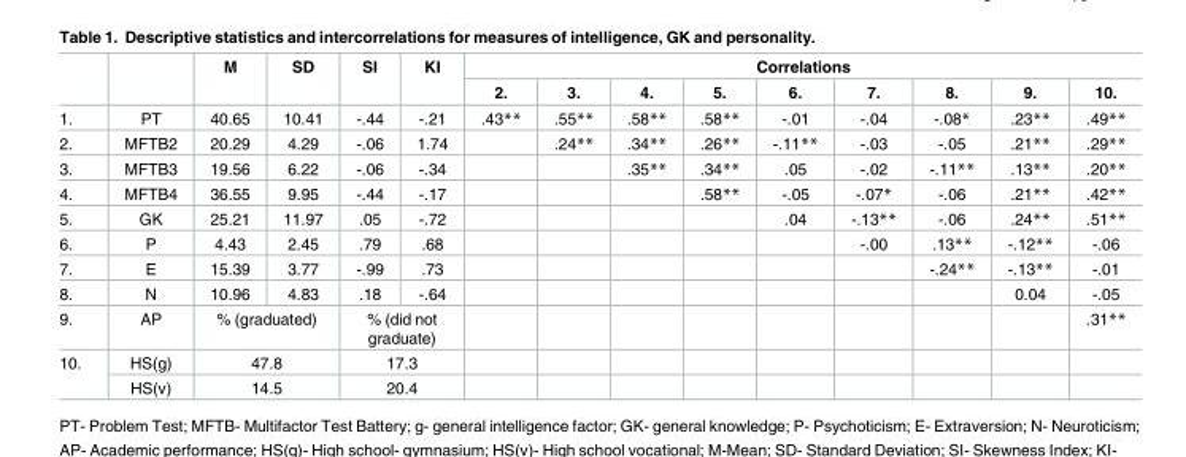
<table><thead><tr><td rowspan="2"></td><td rowspan="2"></td><td rowspan="2">M</td><td rowspan="2">SD</td><td rowspan="2">SI</td><td rowspan="2">KI</td><td colspan="9">Correlations</td></tr><tr><td>2.</td><td>3.</td><td>4.</td><td>5.</td><td>6.</td><td>7.</td><td>8.</td><td>9.</td><td>10.</td></tr></thead><tbody><tr><td>1.</td><td>PT</td><td>40.65</td><td>10.41</td><td>-.44</td><td>-.21</td><td>.43**</td><td>.55**</td><td>.58**</td><td>.58**</td><td>-.01</td><td>-.04</td><td>-.08*</td><td>.23**</td><td>.49**</td></tr><tr><td>2.</td><td>MFTB2</td><td>20.29</td><td>4.29</td><td>-.06</td><td>1.74</td><td></td><td>.24**</td><td>.34**</td><td>.26**</td><td>-.11**</td><td>-.03</td><td>-.05</td><td>.21**</td><td>.29**</td></tr><tr><td>3.</td><td>MFTB3</td><td>19.56</td><td>6.22</td><td>-.06</td><td>-.34</td><td></td><td></td><td>.35**</td><td>.34**</td><td>.05</td><td>-.02</td><td>-.11**</td><td>.13**</td><td>.20**</td></tr><tr><td>4.</td><td>MFTB4</td><td>36.55</td><td>9.95</td><td>-.44</td><td>-.17</td><td></td><td></td><td></td><td>.58**</td><td>-.05</td><td>-.07*</td><td>-.06</td><td>.21**</td><td>.42**</td></tr><tr><td>5.</td><td>GK</td><td>25.21</td><td>11.97</td><td>.05</td><td>-.72</td><td></td><td></td><td></td><td></td><td>.04</td><td>-.13**</td><td>-.06</td><td>.24**</td><td>.51**</td></tr><tr><td>6.</td><td>P</td><td>4.43</td><td>2.45</td><td>.79</td><td>.68</td><td></td><td></td><td></td><td></td><td></td><td>-.00</td><td>.13**</td><td>-.12**</td><td>-.06</td></tr><tr><td>7.</td><td>E</td><td>15.39</td><td>3.77</td><td>-.99</td><td>.73</td><td></td><td></td><td></td><td></td><td></td><td></td><td>-.24**</td><td>-.13**</td><td>-.01</td></tr><tr><td>8.</td><td>N</td><td>10.96</td><td>4.83</td><td>.18</td><td>-.64</td><td></td><td></td><td></td><td></td><td></td><td></td><td></td><td>0.04</td><td>-.05</td></tr><tr><td>9.</td><td>AP</td><td colspan="2">% (graduated)</td><td colspan="2">% (did not graduate)</td><td></td><td></td><td></td><td></td><td></td><td></td><td></td><td></td><td>.31**</td></tr><tr><td rowspan="2">10.</td><td>HS(g)</td><td colspan="2">47.8</td><td colspan="2">17.3</td><td></td><td></td><td></td><td></td><td></td><td></td><td></td><td></td><td></td></tr><tr><td>HS(v)</td><td colspan="2">14.5</td><td colspan="2">20.4</td><td></td><td></td><td></td><td></td><td></td><td></td><td></td><td></td><td></td></tr></tbody></table>